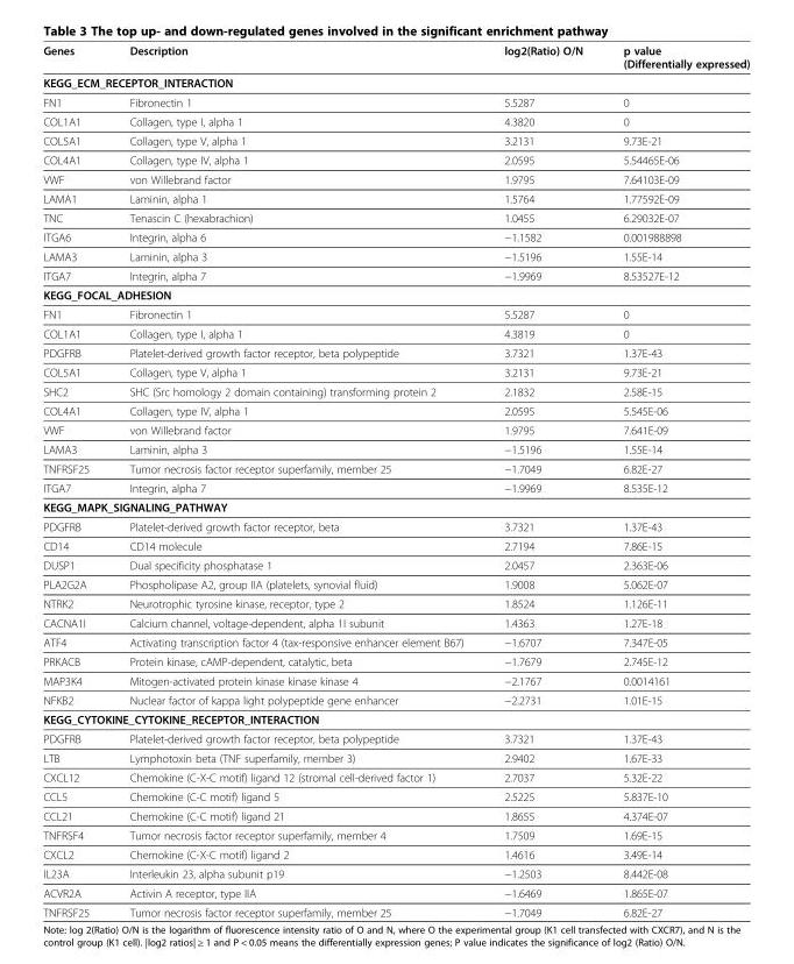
<table><thead><tr><td>Genes</td><td>Description</td><td>log2(Ratio) O/N</td><td>p value (Differentially expressed)</td></tr></thead><tbody><tr><td colspan="4">KEGG_ECM_RECEPTOR_INTERACTION</td></tr><tr><td>FN1</td><td>Fibronectin 1</td><td>5.5287</td><td>0</td></tr><tr><td>COL1A1</td><td>Collagen, type I, alpha 1</td><td>4.3820</td><td>0</td></tr><tr><td>COL5A1</td><td>Collagen, type V, alpha 1</td><td>3.2131</td><td>9.73E-21</td></tr><tr><td>COL4A1</td><td>Collagen, type IV, alpha 1</td><td>2.0595</td><td>5.54465E-06</td></tr><tr><td>VWF</td><td>von Willebrand factor</td><td>1.9795</td><td>7.64103E-09</td></tr><tr><td>LAMA1</td><td>Laminin, alpha 1</td><td>1.5764</td><td>1.77592E-09</td></tr><tr><td>TNC</td><td>Tenascin C (hexabrachion)</td><td>1.0455</td><td>6.29032E-07</td></tr><tr><td>ITGA6</td><td>Integrin, alpha 6</td><td>−1.1582</td><td>0.001988898</td></tr><tr><td>LAMA3</td><td>Laminin, alpha 3</td><td>−1.5196</td><td>1.55E-14</td></tr><tr><td>ITGA7</td><td>Integrin, alpha 7</td><td>−1.9969</td><td>8.53527E-12</td></tr><tr><td colspan="4">KEGG_FOCAL_ADHESION</td></tr><tr><td>FN1</td><td>Fibronectin 1</td><td>5.5287</td><td>0</td></tr><tr><td>COL1A1</td><td>Collagen, type I, alpha 1</td><td>4.3819</td><td>0</td></tr><tr><td>PDGFRB</td><td>Platelet-derived growth factor receptor, beta polypeptide</td><td>3.7321</td><td>1.37E-43</td></tr><tr><td>COL5A1</td><td>Collagen, type V, alpha 1</td><td>3.2131</td><td>9.73E-21</td></tr><tr><td>SHC2</td><td>SHC (Src homology 2 domain containing) transforming protein 2</td><td>2.1832</td><td>2.58E-15</td></tr><tr><td>COL4A1</td><td>Collagen, type IV, alpha 1</td><td>2.0595</td><td>5.545E-06</td></tr><tr><td>VWF</td><td>von Willebrand factor</td><td>1.9795</td><td>7.641E-09</td></tr><tr><td>LAMA3</td><td>Laminin, alpha 3</td><td>−1.5196</td><td>1.55E-14</td></tr><tr><td>TNFRSF25</td><td>Tumor necrosis factor receptor superfamily, member 25</td><td>−1.7049</td><td>6.82E-27</td></tr><tr><td>ITGA7</td><td>Integrin, alpha 7</td><td>−1.9969</td><td>8.535E-12</td></tr><tr><td colspan="4">KEGG_MAPK_SIGNALING_PATHWAY</td></tr><tr><td>PDGFRB</td><td>Platelet-derived growth factor receptor, beta</td><td>3.7321</td><td>1.37E-43</td></tr><tr><td>CD14</td><td>CD14 molecule</td><td>2.7194</td><td>7.86E-15</td></tr><tr><td>DUSP1</td><td>Dual specificity phosphatase 1</td><td>2.0457</td><td>2.363E-06</td></tr><tr><td>PLA2G2A</td><td>Phospholipase A2, group IIA (platelets, synovial fluid)</td><td>1.9008</td><td>5.062E-07</td></tr><tr><td>NTRK2</td><td>Neurotrophic tyrosine kinase, receptor, type 2</td><td>1.8524</td><td>1.126E-11</td></tr><tr><td>CACNA1I</td><td>Calcium channel, voltage-dependent, alpha 1I subunit</td><td>1.4363</td><td>1.27E-18</td></tr><tr><td>ATF4</td><td>Activating transcription factor 4 (tax-responsive enhancer element B67)</td><td>−1.6707</td><td>7.347E-05</td></tr><tr><td>PRKACB</td><td>Protein kinase, cAMP-dependent, catalytic, beta</td><td>−1.7679</td><td>2.745E-12</td></tr><tr><td>MAP3K4</td><td>Mitogen-activated protein kinase kinase kinase 4</td><td>−2.1767</td><td>0.0014161</td></tr><tr><td>NFKB2</td><td>Nuclear factor of kappa light polypeptide gene enhancer</td><td>−2.2731</td><td>1.01E-15</td></tr><tr><td colspan="4">KEGG_CYTOKINE_CYTOKINE_RECEPTOR_INTERACTION</td></tr><tr><td>PDGFRB</td><td>Platelet-derived growth factor receptor, beta polypeptide</td><td>3.7321</td><td>1.37E-43</td></tr><tr><td>LTB</td><td>Lymphotoxin beta (TNF superfamily, member 3)</td><td>2.9402</td><td>1.67E-33</td></tr><tr><td>CXCL12</td><td>Chemokine (C-X-C motif) ligand 12 (stromal cell-derived factor 1)</td><td>2.7037</td><td>5.32E-22</td></tr><tr><td>CCL5</td><td>Chemokine (C-C motif) ligand 5</td><td>2.5225</td><td>5.837E-10</td></tr><tr><td>CCL21</td><td>Chemokine (C-C motif) ligand 21</td><td>1.8655</td><td>4.374E-07</td></tr><tr><td>TNFRSF4</td><td>Tumor necrosis factor receptor superfamily, member 4</td><td>1.7509</td><td>1.69E-15</td></tr><tr><td>CXCL2</td><td>Chemokine (C-X-C motif) ligand 2</td><td>1.4616</td><td>3.49E-14</td></tr><tr><td>IL23A</td><td>Interleukin 23, alpha subunit p19</td><td>−1.2503</td><td>8.442E-08</td></tr><tr><td>ACVR2A</td><td>Activin A receptor, type IIA</td><td>−1.6469</td><td>1.865E-07</td></tr><tr><td>TNFRSF25</td><td>Tumor necrosis factor receptor superfamily, member 25</td><td>−1.7049</td><td>6.82E-27</td></tr></tbody></table>